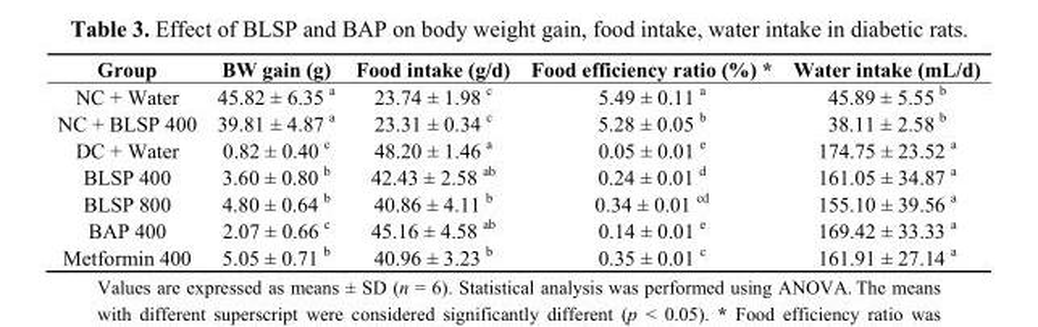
<table><thead><tr><td>Group</td><td>BW gain (g)</td><td>Food intake (g/d)</td><td>Food efficiency ratio (%) *</td><td>Water intake (mL/d)</td></tr></thead><tbody><tr><td>NC + Water</td><td>45.82 ± 6.35 <sup>a</sup></td><td>23.74 ± 1.98 <sup>c</sup></td><td>5.49 ± 0.11 <sup>a</sup></td><td>45.89 ± 5.55 <sup>b</sup></td></tr><tr><td>NC + BLSP 400</td><td>39.81 ± 4.87 <sup>a</sup></td><td>23.31 ± 0.34 <sup>c</sup></td><td>5.28 ± 0.05 <sup>b</sup></td><td>38.11 ± 2.58 <sup>b</sup></td></tr><tr><td>DC + Water</td><td>0.82 ± 0.40 <sup>c</sup></td><td>48.20 ± 1.46 <sup>a</sup></td><td>0.05 ± 0.01 <sup>e</sup></td><td>174.75 ± 23.52 <sup>a</sup></td></tr><tr><td>BLSP 400</td><td>3.60 ± 0.80 <sup>b</sup></td><td>42.43 ± 2.58 <sup>ab</sup></td><td>0.24 ± 0.01 <sup>d</sup></td><td>161.05 ± 34.87 <sup>a</sup></td></tr><tr><td>BLSP 800</td><td>4.80 ± 0.64 <sup>b</sup></td><td>40.86 ± 4.11 <sup>b</sup></td><td>0.34 ± 0.01 <sup>cd</sup></td><td>155.10 ± 39.56 <sup>a</sup></td></tr><tr><td>BAP 400</td><td>2.07 ± 0.66 <sup>c</sup></td><td>45.16 ± 4.58 <sup>ab</sup></td><td>0.14 ± 0.01 <sup>e</sup></td><td>169.42 ± 33.33 <sup>a</sup></td></tr><tr><td>Metformin 400</td><td>5.05 ± 0.71 <sup>b</sup></td><td>40.96 ± 3.23 <sup>b</sup></td><td>0.35 ± 0.01 <sup>c</sup></td><td>161.91 ± 27.14 <sup>a</sup></td></tr></tbody></table>